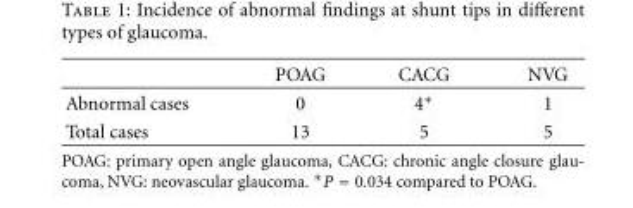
<table><thead><tr><td></td><td>POAG</td><td>CACG</td><td>NVG</td></tr></thead><tbody><tr><td>Abnormal cases</td><td>0</td><td>4∗</td><td>1</td></tr><tr><td>Total cases</td><td>13</td><td>5</td><td>5</td></tr></tbody></table>